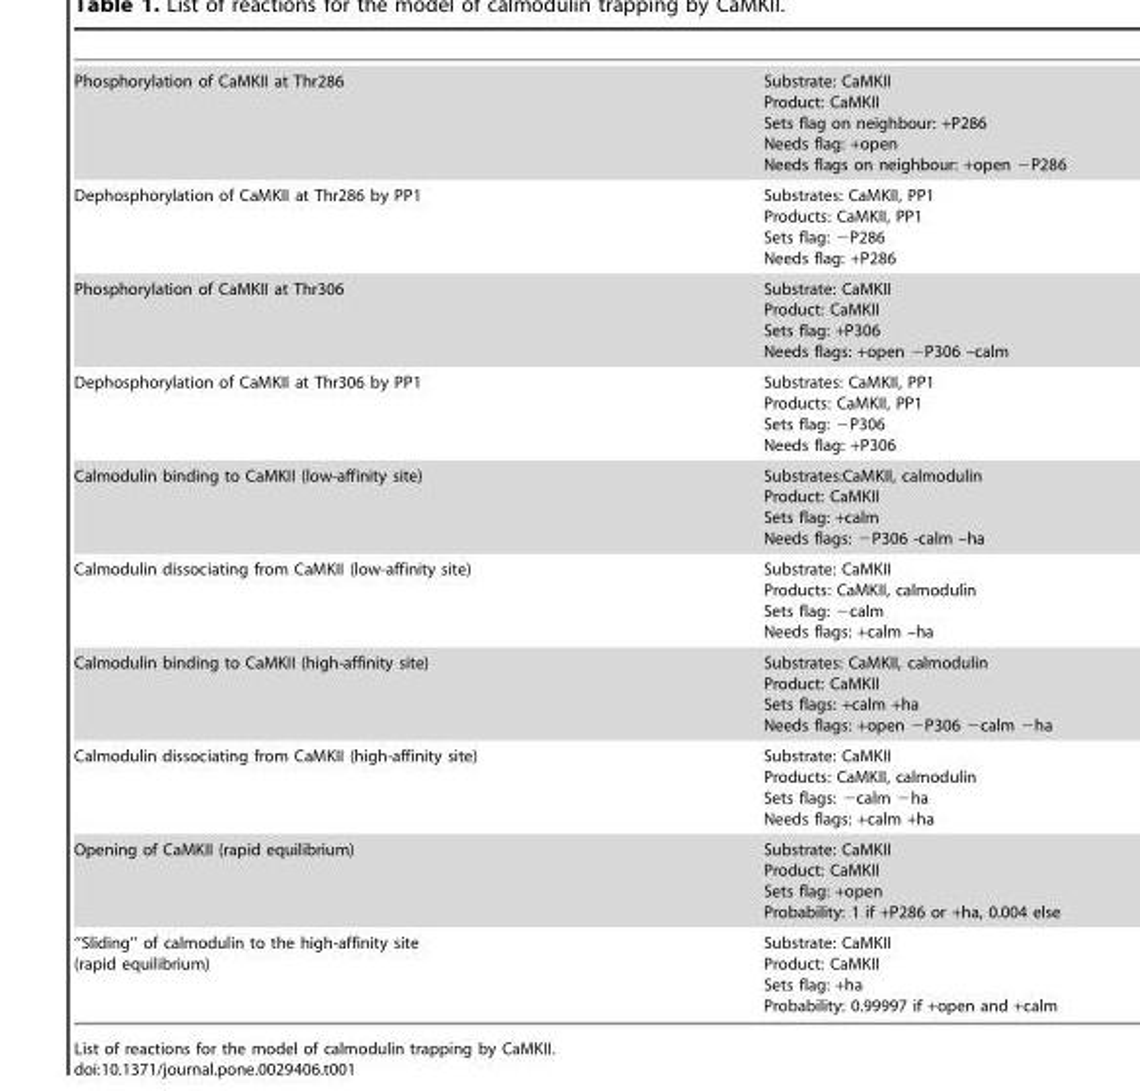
<table><tbody><tr><td>Phosphorylation of CaMKII at Thr286</td><td>Substrate: CaMKII Product: CaMKII Sets flag on neighbour: +P286 Needs flag: +open Needs flags on neighbour: +open −P286</td></tr><tr><td>Dephosphorylation of CaMKII at Thr286 by PP1</td><td>Substrates: CaMKII, PP1 Products: CaMKII, PP1 Sets flag: −P286 Needs flag: +P286</td></tr><tr><td>Phosphorylation of CaMKII at Thr306</td><td>Substrate: CaMKII Product: CaMKII Sets flag: +P306 Needs flags: +open −P306 –calm</td></tr><tr><td>Dephosphorylation of CaMKII at Thr306 by PP1</td><td>Substrates: CaMKII, PP1 Products: CaMKII, PP1 Sets flag: −P306 Needs flag: +P306</td></tr><tr><td>Calmodulin binding to CaMKII (low-affinity site)</td><td>Substrates:CaMKII, calmodulin Product: CaMKII Sets flag: +calm Needs flags: −P306 -calm –ha</td></tr><tr><td>Calmodulin dissociating from CaMKII (low-affinity site)</td><td>Substrate: CaMKII Products: CaMKII, calmodulin Sets flag: −calm Needs flags: +calm –ha</td></tr><tr><td>Calmodulin binding to CaMKII (high-affinity site)</td><td>Substrates: CaMKII, calmodulin Product: CaMKII Sets flags: +calm +ha Needs flags: +open −P306 −calm −ha</td></tr><tr><td>Calmodulin dissociating from CaMKII (high-affinity site)</td><td>Substrate: CaMKII Products: CaMKII, calmodulin Sets flags: −calm −ha Needs flags: +calm +ha</td></tr><tr><td>Opening of CaMKII (rapid equilibrium)</td><td>Substrate: CaMKII Product: CaMKII Sets flag: +open Probability: 1 if +P286 or +ha, 0.004 else</td></tr><tr><td>‘‘Sliding’’ of calmodulin to the high-affinity site (rapid equilibrium)</td><td>Substrate: CaMKII Product: CaMKII Sets flag: +ha Probability: 0.99997 if +open and +calm</td></tr></tbody></table>